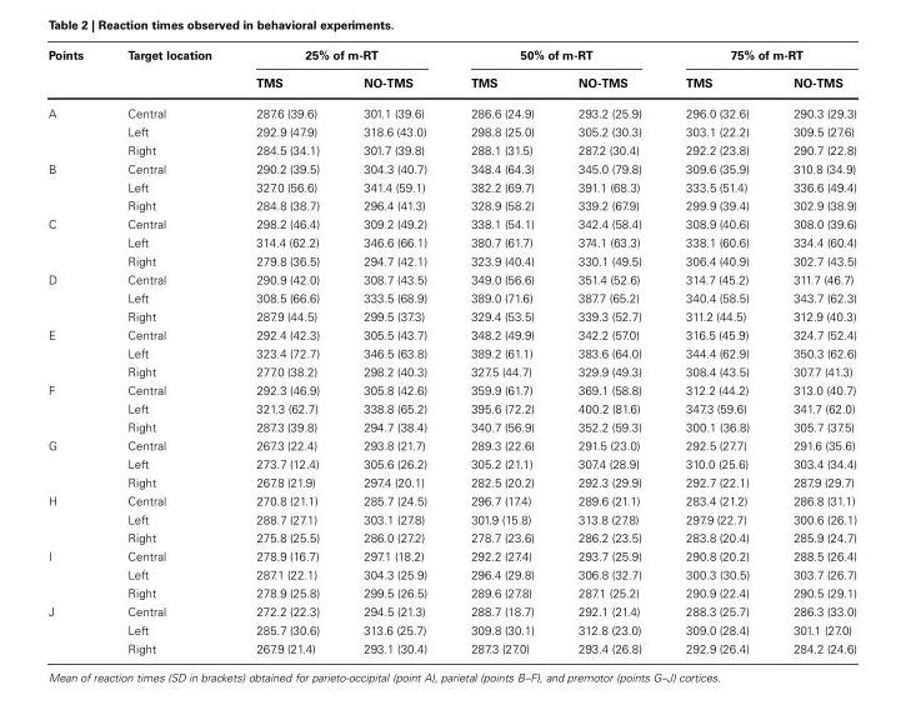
<table><thead><tr><td rowspan="2">Points</td><td rowspan="2">Target location</td><td colspan="2">25% of m-RT</td><td colspan="2">50% of m-RT</td><td colspan="2">75% of m-RT</td></tr><tr><td>TMS</td><td>NO-TMS</td><td>TMS</td><td>NO-TMS</td><td>TMS</td><td>NO-TMS</td></tr></thead><tbody><tr><td rowspan="3">A</td><td>Central</td><td>287.6 (39.6)</td><td>301.1 (39.6)</td><td>286.6 (24.9)</td><td>293.2 (25.9)</td><td>296.0 (32.6)</td><td>290.3 (29.3)</td></tr><tr><td>Left</td><td>292.9 (47.9)</td><td>318.6 (43.0)</td><td>298.8 (25.0)</td><td>305.2 (30.3)</td><td>303.1 (22.2)</td><td>309.5 (27.6)</td></tr><tr><td>Right</td><td>284.5 (34.1)</td><td>301.7 (39.8)</td><td>288.1 (31.5)</td><td>287.2 (30.4)</td><td>292.2 (23.8)</td><td>290.7 (22.8)</td></tr><tr><td rowspan="3">B</td><td>Central</td><td>290.2 (39.5)</td><td>304.3 (40.7)</td><td>348.4 (64.3)</td><td>345.0 (79.8)</td><td>309.6 (35.9)</td><td>310.8 (34.9)</td></tr><tr><td>Left</td><td>327.0 (56.6)</td><td>341.4 (59.1)</td><td>382.2 (69.7)</td><td>391.1 (68.3)</td><td>333.5 (51.4)</td><td>336.6 (49.4)</td></tr><tr><td>Right</td><td>284.8 (38.7)</td><td>296.4 (41.3)</td><td>328.9 (58.2)</td><td>339.2 (67.9)</td><td>299.9 (39.4)</td><td>302.9 (38.9)</td></tr><tr><td rowspan="3">C</td><td>Central</td><td>298.2 (46.4)</td><td>309.2 (49.2)</td><td>338.1 (54.1)</td><td>342.4 (58.4)</td><td>308.9 (40.6)</td><td>308.0 (39.6)</td></tr><tr><td>Left</td><td>314.4 (62.2)</td><td>346.6 (66.1)</td><td>380.7 (61.7)</td><td>374.1 (63.3)</td><td>338.1 (60.6)</td><td>334.4 (60.4)</td></tr><tr><td>Right</td><td>279.8 (36.5)</td><td>294.7 (42.1)</td><td>323.9 (40.4)</td><td>330.1 (49.5)</td><td>306.4 (40.9)</td><td>302.7 (43.5)</td></tr><tr><td rowspan="3">D</td><td>Central</td><td>290.9 (42.0)</td><td>308.7 (43.5)</td><td>349.0 (56.6)</td><td>351.4 (52.6)</td><td>314.7 (45.2)</td><td>311.7 (46.7)</td></tr><tr><td>Left</td><td>308.5 (66.6)</td><td>333.5 (68.9)</td><td>389.0 (71.6)</td><td>387.7 (65.2)</td><td>340.4 (58.5)</td><td>343.7 (62.3)</td></tr><tr><td>Right</td><td>287.9 (44.5)</td><td>299.5 (37.3)</td><td>329.4 (53.5)</td><td>339.3 (52.7)</td><td>311.2 (44.5)</td><td>312.9 (40.3)</td></tr><tr><td rowspan="3">E</td><td>Central</td><td>292.4 (42.3)</td><td>305.5 (43.7)</td><td>348.2 (49.9)</td><td>342.2 (57.0)</td><td>316.5 (45.9)</td><td>324.7 (52.4)</td></tr><tr><td>Left</td><td>323.4 (72.7)</td><td>346.5 (63.8)</td><td>389.2 (61.1)</td><td>383.6 (64.0)</td><td>344.4 (62.9)</td><td>350.3 (62.6)</td></tr><tr><td>Right</td><td>277.0 (38.2)</td><td>298.2 (40.3)</td><td>327.5 (44.7)</td><td>329.9 (49.3)</td><td>308.4 (43.5)</td><td>307.7 (41.3)</td></tr><tr><td rowspan="3">F</td><td>Central</td><td>292.3 (46.9)</td><td>305.8 (42.6)</td><td>359.9 (61.7)</td><td>369.1 (58.8)</td><td>312.2 (44.2)</td><td>313.0 (40.7)</td></tr><tr><td>Left</td><td>321.3 (62.7)</td><td>338.8 (65.2)</td><td>395.6 (72.2)</td><td>400.2 (81.6)</td><td>347.3 (59.6)</td><td>341.7 (62.0)</td></tr><tr><td>Right</td><td>287.3 (39.8)</td><td>294.7 (38.4)</td><td>340.7 (56.9)</td><td>352.2 (59.3)</td><td>300.1 (36.8)</td><td>305.7 (37.5)</td></tr><tr><td rowspan="3">G</td><td>Central</td><td>267.3 (22.4)</td><td>293.8 (21.7)</td><td>289.3 (22.6)</td><td>291.5 (23.0)</td><td>292.5 (27.7)</td><td>291.6 (35.6)</td></tr><tr><td>Left</td><td>273.7 (12.4)</td><td>305.6 (26.2)</td><td>305.2 (21.1)</td><td>307.4 (28.9)</td><td>310.0 (25.6)</td><td>303.4 (34.4)</td></tr><tr><td>Right</td><td>267.8 (21.9)</td><td>297.4 (20.1)</td><td>282.5 (20.2)</td><td>292.3 (29.9)</td><td>292.7 (22.1)</td><td>287.9 (29.7)</td></tr><tr><td rowspan="3">H</td><td>Central</td><td>270.8 (21.1)</td><td>285.7 (24.5)</td><td>296.7 (17.4)</td><td>289.6 (21.1)</td><td>283.4 (21.2)</td><td>286.8 (31.1)</td></tr><tr><td>Left</td><td>288.7 (27.1)</td><td>303.1 (27.8)</td><td>301.9 (15.8)</td><td>313.8 (27.8)</td><td>297.9 (22.7)</td><td>300.6 (26.1)</td></tr><tr><td>Right</td><td>275.8 (25.5)</td><td>286.0 (27.2)</td><td>278.7 (23.6)</td><td>286.2 (23.5)</td><td>283.8 (20.4)</td><td>285.9 (24.7)</td></tr><tr><td rowspan="3">I</td><td>Central</td><td>278.9 (16.7)</td><td>297.1 (18.2)</td><td>292.2 (27.4)</td><td>293.7 (25.9)</td><td>290.8 (20.2)</td><td>288.5 (26.4)</td></tr><tr><td>Left</td><td>287.1 (22.1)</td><td>304.3 (25.9)</td><td>296.4 (29.8)</td><td>306.8 (32.7)</td><td>300.3 (30.5)</td><td>303.7 (26.7)</td></tr><tr><td>Right</td><td>278.9 (25.8)</td><td>299.5 (26.5)</td><td>289.6 (27.8)</td><td>287.1 (25.2)</td><td>290.9 (22.4)</td><td>290.5 (29.1)</td></tr><tr><td rowspan="3">J</td><td>Central</td><td>272.2 (22.3)</td><td>294.5 (21.3)</td><td>288.7 (18.7)</td><td>292.1 (21.4)</td><td>288.3 (25.7)</td><td>286.3 (33.0)</td></tr><tr><td>Left</td><td>285.7 (30.6)</td><td>313.6 (25.7)</td><td>309.8 (30.1)</td><td>312.8 (23.0)</td><td>309.0 (28.4)</td><td>301.1 (27.0)</td></tr><tr><td>Right</td><td>267.9 (21.4)</td><td>293.1 (30.4)</td><td>287.3 (27.0)</td><td>293.4 (26.8)</td><td>292.9 (26.4)</td><td>284.2 (24.6)</td></tr></tbody></table>